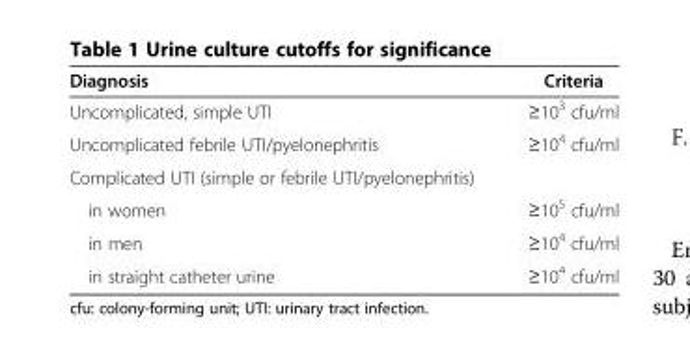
<table><thead><tr><td>Diagnosis</td><td>Criteria</td></tr></thead><tbody><tr><td>Uncomplicated, simple UTI</td><td>≥10<sup>3</sup> cfu/ml</td></tr><tr><td>Uncomplicated febrile UTI/pyelonephritis</td><td>≥10<sup>4</sup> cfu/ml</td></tr><tr><td colspan="2">Complicated UTI (simple or febrile UTI/pyelonephritis)</td></tr><tr><td>in women</td><td>≥10<sup>5</sup> cfu/ml</td></tr><tr><td>in men</td><td>≥10<sup>4</sup> cfu/ml</td></tr><tr><td>in straight catheter urine</td><td>≥10<sup>4</sup> cfu/ml</td></tr></tbody></table>